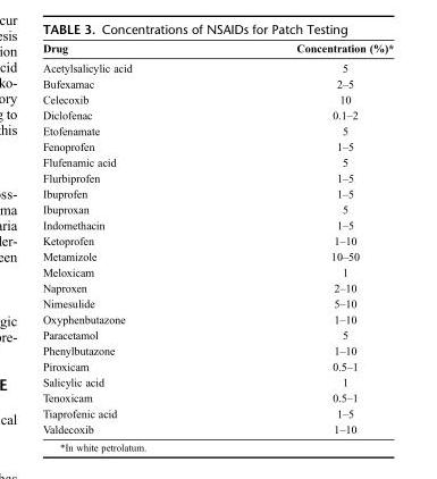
<table><tbody><tr><td>Drug</td><td>Concentration (%)*</td></tr><tr><td>Acetylsalicylic acid</td><td>5</td></tr><tr><td>Bufexamac</td><td>2Y5</td></tr><tr><td>Celecoxib</td><td>10</td></tr><tr><td>Diclofenac</td><td>0.1Y2</td></tr><tr><td>Etofenamate</td><td>5</td></tr><tr><td>Fenoprofen</td><td>1Y5</td></tr><tr><td>Flufenamic acid</td><td>5</td></tr><tr><td>Flurbiprofen</td><td>1Y5</td></tr><tr><td>Ibuprofen</td><td>1Y5</td></tr><tr><td>Ibuproxan</td><td>5</td></tr><tr><td>Indomethacin</td><td>1Y5</td></tr><tr><td>Ketoprofen</td><td>1Y10</td></tr><tr><td>Metamizole</td><td>10Y50</td></tr><tr><td>Meloxicam</td><td>1</td></tr><tr><td>Naproxen</td><td>2Y10</td></tr><tr><td>Nimesulide</td><td>5Y10</td></tr><tr><td>Oxyphenbutazone</td><td>1Y10</td></tr><tr><td>Paracetamol</td><td>5</td></tr><tr><td>Phenylbutazone</td><td>1Y10</td></tr><tr><td>Piroxicam</td><td>0.5Y1</td></tr><tr><td>Salicylic acid</td><td>1</td></tr><tr><td>Tenoxicam</td><td>0.5Y1</td></tr><tr><td>Tiaprofenic acid</td><td>1Y5</td></tr><tr><td>Valdecoxib</td><td>1Y10</td></tr></tbody></table>